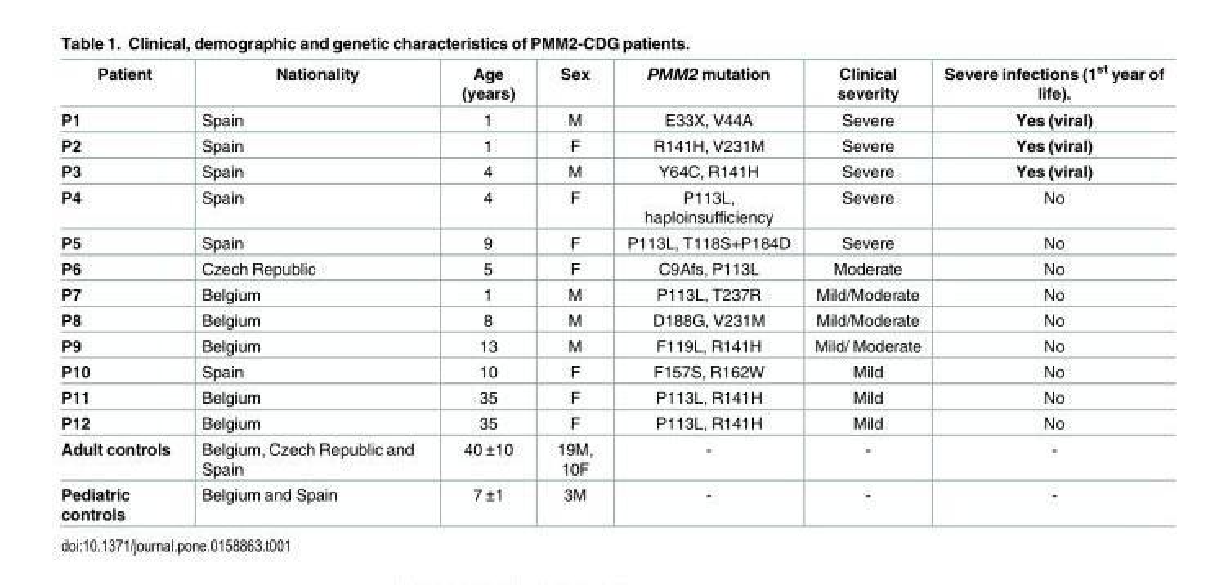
<table><thead><tr><td>Patient</td><td>Nationality</td><td>Age (years)</td><td>Sex</td><td>PMM2 mutation</td><td>Clinical severity</td><td>Severe infections (1<sup>st</sup> year of life).</td></tr></thead><tbody><tr><td>P1</td><td>Spain</td><td>1</td><td>M</td><td>E33X, V44A</td><td>Severe</td><td>Yes (viral)</td></tr><tr><td>P2</td><td>Spain</td><td>1</td><td>F</td><td>R141H, V231M</td><td>Severe</td><td>Yes (viral)</td></tr><tr><td>P3</td><td>Spain</td><td>4</td><td>M</td><td>Y64C, R141H</td><td>Severe</td><td>Yes (viral)</td></tr><tr><td>P4</td><td>Spain</td><td>4</td><td>F</td><td>P113L, haploinsufficiency</td><td>Severe</td><td>No</td></tr><tr><td>P5</td><td>Spain</td><td>9</td><td>F</td><td>P113L, T118S+P184D</td><td>Severe</td><td>No</td></tr><tr><td>P6</td><td>Czech Republic</td><td>5</td><td>F</td><td>C9Afs, P113L</td><td>Moderate</td><td>No</td></tr><tr><td>P7</td><td>Belgium</td><td>1</td><td>M</td><td>P113L, T237R</td><td>Mild/Moderate</td><td>No</td></tr><tr><td>P8</td><td>Belgium</td><td>8</td><td>M</td><td>D188G, V231M</td><td>Mild/Moderate</td><td>No</td></tr><tr><td>P9</td><td>Belgium</td><td>13</td><td>M</td><td>F119L, R141H</td><td>Mild/ Moderate</td><td>No</td></tr><tr><td>P10</td><td>Spain</td><td>10</td><td>F</td><td>F157S, R162W</td><td>Mild</td><td>No</td></tr><tr><td>P11</td><td>Belgium</td><td>35</td><td>F</td><td>P113L, R141H</td><td>Mild</td><td>No</td></tr><tr><td>P12</td><td>Belgium</td><td>35</td><td>F</td><td>P113L, R141H</td><td>Mild</td><td>No</td></tr><tr><td>Adult controls</td><td>Belgium, Czech Republic and Spain</td><td>40 ±10</td><td>19M, 10F</td><td>-</td><td>-</td><td>-</td></tr><tr><td>Pediatric controls</td><td>Belgium and Spain</td><td>7 ±1</td><td>3M</td><td>-</td><td>-</td><td>-</td></tr></tbody></table>